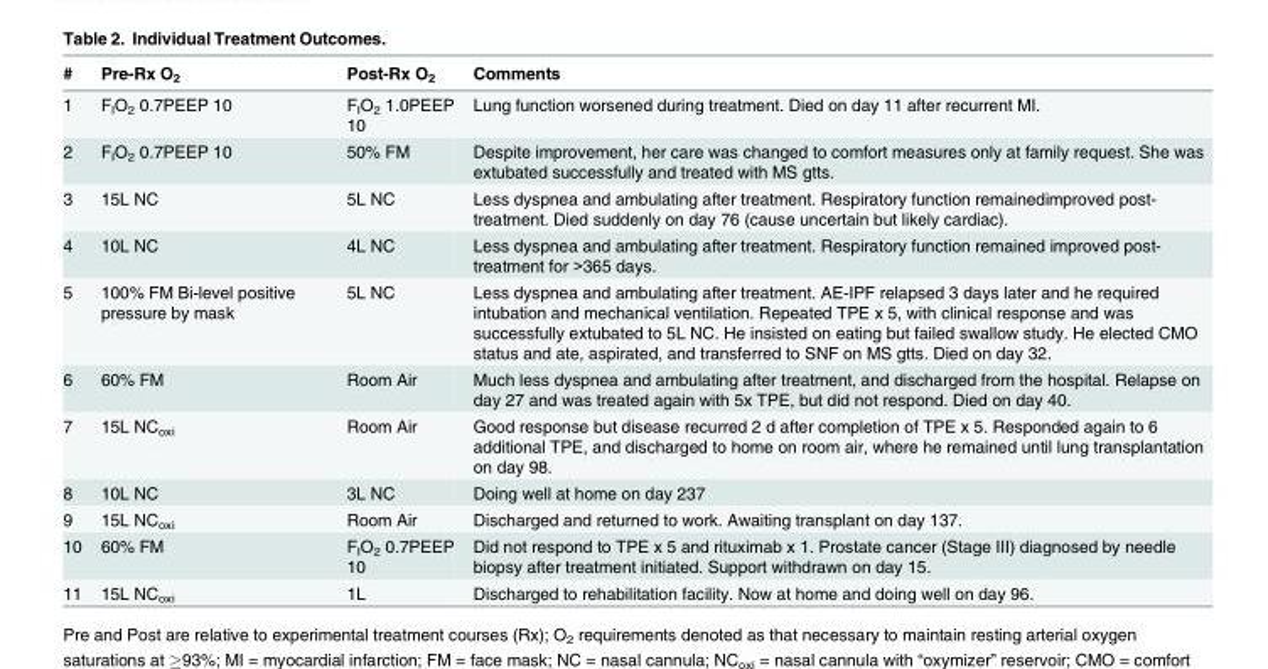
<table><thead><tr><td>#</td><td>Pre-Rx O<sub>2</sub></td><td>Post-Rx O<sub>2</sub></td><td>Comments</td></tr></thead><tbody><tr><td>1</td><td>F<sub>I</sub>O<sub>2</sub> 0.7PEEP 10</td><td>F<sub>I</sub>O<sub>2</sub> 1.0PEEP 10</td><td>Lung function worsened during treatment. Died on day 11 after recurrent MI.</td></tr><tr><td>2</td><td>F<sub>I</sub>O<sub>2</sub> 0.7PEEP 10</td><td>50% FM</td><td>Despite improvement, her care was changed to comfort measures only at family request. She was extubated successfully and treated with MS gtts.</td></tr><tr><td>3</td><td>15L NC</td><td>5L NC</td><td>Less dyspnea and ambulating after treatment. Respiratory function remainedimproved post- treatment. Died suddenly on day 76 (cause uncertain but likely cardiac).</td></tr><tr><td>4</td><td>10L NC</td><td>4L NC</td><td>Less dyspnea and ambulating after treatment. Respiratory function remained improved post- treatment for &gt;365 days.</td></tr><tr><td>5</td><td>100% FM Bi-level positive pressure by mask</td><td>5L NC</td><td>Less dyspnea and ambulating after treatment. AE-IPF relapsed 3 days later and he required intubation and mechanical ventilation. Repeated TPE x 5, with clinical response and was successfully extubated to 5L NC. He insisted on eating but failed swallow study. He elected CMO status and ate, aspirated, and transferred to SNF on MS gtts. Died on day 32.</td></tr><tr><td>6</td><td>60% FM</td><td>Room Air</td><td>Much less dyspnea and ambulating after treatment, and discharged from the hospital. Relapse on day 27 and was treated again with 5x TPE, but did not respond. Died on day 40.</td></tr><tr><td>7</td><td>15L NC<sub>oxi</sub></td><td>Room Air</td><td>Good response but disease recurred 2 d after completion of TPE x 5. Responded again to 6 additional TPE, and discharged to home on room air, where he remained until lung transplantation on day 98.</td></tr><tr><td>8</td><td>10L NC</td><td>3L NC</td><td>Doing well at home on day 237</td></tr><tr><td>9</td><td>15L NC<sub>oxi</sub></td><td>Room Air</td><td>Discharged and returned to work. Awaiting transplant on day 137.</td></tr><tr><td>10</td><td>60% FM</td><td>F<sub>I</sub>O<sub>2</sub> 0.7PEEP 10</td><td>Did not respond to TPE x 5 and rituximab x 1. Prostate cancer (Stage III) diagnosed by needle biopsy after treatment initiated. Support withdrawn on day 15.</td></tr><tr><td>11</td><td>15L NC<sub>oxi</sub></td><td>1L</td><td>Discharged to rehabilitation facility. Now at home and doing well on day 96.</td></tr></tbody></table>